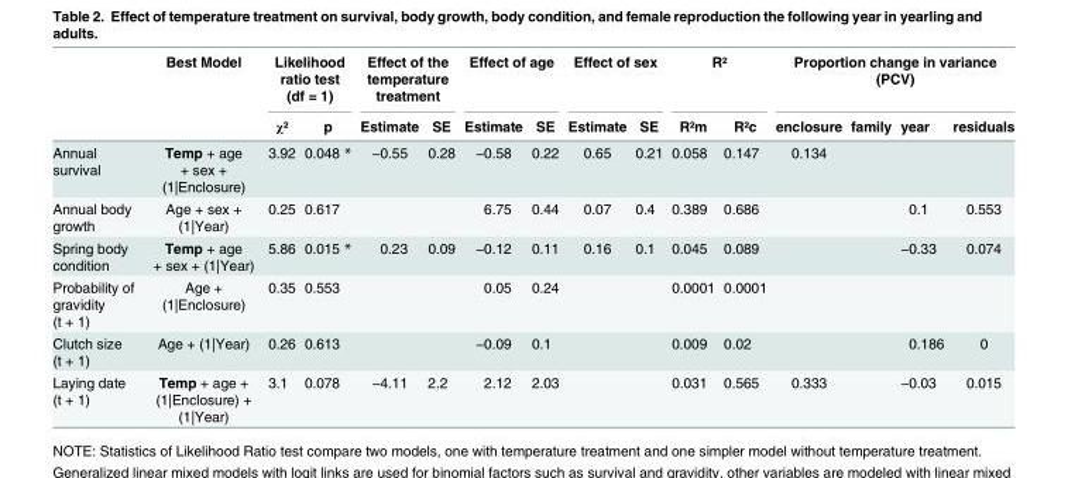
<table><thead><tr><td rowspan="2"></td><td rowspan="2">Best Model</td><td colspan="2">Likelihood ratio test (df = 1)</td><td colspan="2">Effect of the temperature treatment</td><td colspan="2">Effect of age</td><td colspan="2">Effect of sex</td><td colspan="2">R²</td><td colspan="4">Proportion change in variance (PCV)</td></tr><tr><td>χ²</td><td>p</td><td>Estimate</td><td>SE</td><td>Estimate</td><td>SE</td><td>Estimate</td><td>SE</td><td>R²m</td><td>R²c</td><td>enclosure</td><td>family</td><td>year</td><td>residuals</td></tr></thead><tbody><tr><td>Annual survival</td><td>Temp + age + sex + (1|Enclosure)</td><td>3.92</td><td>0.048 *</td><td>−0.55</td><td>0.28</td><td>−0.58</td><td>0.22</td><td>0.65</td><td>0.21</td><td>0.058</td><td>0.147</td><td>0.134</td><td></td><td></td><td></td></tr><tr><td>Annual body growth</td><td>Age + sex + (1|Year)</td><td>0.25</td><td>0.617</td><td></td><td></td><td>6.75</td><td>0.44</td><td>0.07</td><td>0.4</td><td>0.389</td><td>0.686</td><td></td><td></td><td>0.1</td><td>0.553</td></tr><tr><td>Spring body condition</td><td>Temp + age + sex + (1|Year)</td><td>5.86</td><td>0.015 *</td><td>0.23</td><td>0.09</td><td>−0.12</td><td>0.11</td><td>0.16</td><td>0.1</td><td>0.045</td><td>0.089</td><td></td><td></td><td>−0.33</td><td>0.074</td></tr><tr><td>Probability of gravidity (t + 1)</td><td>Age + (1|Enclosure)</td><td>0.35</td><td>0.553</td><td></td><td></td><td>0.05</td><td>0.24</td><td></td><td></td><td>0.0001</td><td>0.0001</td><td></td><td></td><td></td><td></td></tr><tr><td>Clutch size (t + 1)</td><td>Age + (1|Year)</td><td>0.26</td><td>0.613</td><td></td><td></td><td>−0.09</td><td>0.1</td><td></td><td></td><td>0.009</td><td>0.02</td><td></td><td></td><td>0.186</td><td>0</td></tr><tr><td>Laying date (t + 1)</td><td>Temp + age + (1|Enclosure) + (1|Year)</td><td>3.1</td><td>0.078</td><td>−4.11</td><td>2.2</td><td>2.12</td><td>2.03</td><td></td><td></td><td>0.031</td><td>0.565</td><td>0.333</td><td></td><td>−0.03</td><td>0.015</td></tr></tbody></table>